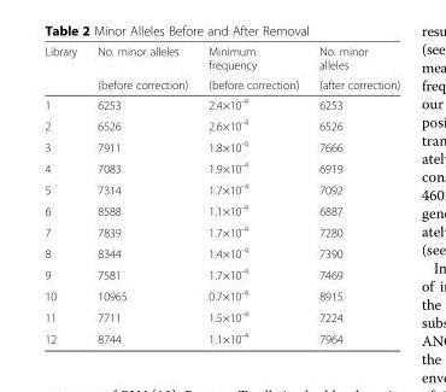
<table><thead><tr><td rowspan="2">Library</td><td rowspan="2">No. minor alleles (before correction)</td><td rowspan="2">Minimum frequency (before correction)</td><td rowspan="2">No. minor alleles (after correction)</td></tr><tr></tr></thead><tbody><tr><td>1</td><td>6253</td><td>2.4×10<sup>-4</sup></td><td>6253</td></tr><tr><td>2</td><td>6526</td><td>2.6×10<sup>-4</sup></td><td>6526</td></tr><tr><td>3</td><td>7911</td><td>1.8×10<sup>-4</sup></td><td>7666</td></tr><tr><td>4</td><td>7083</td><td>1.9×10<sup>-4</sup></td><td>6919</td></tr><tr><td>5</td><td>7314</td><td>1.7×10<sup>-4</sup></td><td>7092</td></tr><tr><td>6</td><td>8588</td><td>1.1×10<sup>-4</sup></td><td>6887</td></tr><tr><td>7</td><td>7839</td><td>1.7×10<sup>-4</sup></td><td>7280</td></tr><tr><td>8</td><td>8344</td><td>1.4×10<sup>-4</sup></td><td>7390</td></tr><tr><td>9</td><td>7581</td><td>1.7×10<sup>-4</sup></td><td>7469</td></tr><tr><td>10</td><td>10965</td><td>0.7×10<sup>-4</sup></td><td>8915</td></tr><tr><td>11</td><td>7711</td><td>1.5×10<sup>-4</sup></td><td>7224</td></tr><tr><td>12</td><td>8744</td><td>1.1×10<sup>-4</sup></td><td>7964</td></tr></tbody></table>